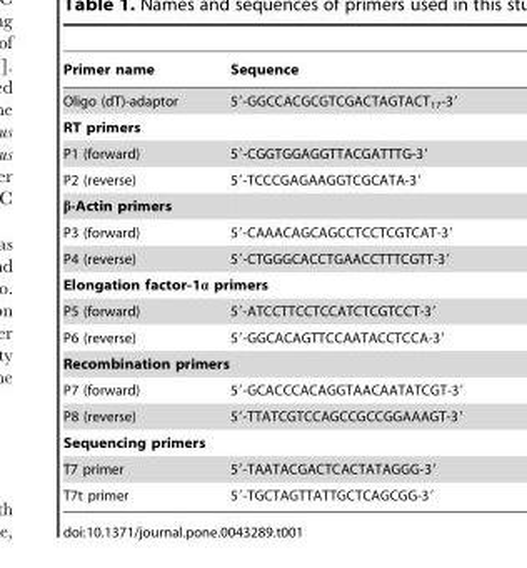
<table><thead><tr><td>Primer name</td><td>Sequence</td></tr></thead><tbody><tr><td>Oligo (dT)-adaptor</td><td>5′-GGCCACGCGTCGACTAGTACT<sub>17</sub>-3′</td></tr><tr><td colspan="2">RT primers</td></tr><tr><td>P1 (forward)</td><td>5′-CGGTGGAGGTTACGATTTG-3′</td></tr><tr><td>P2 (reverse)</td><td>5′-TCCCGAGAAGGTCGCATA-3′</td></tr><tr><td colspan="2">β-Actin primers</td></tr><tr><td>P3 (forward)</td><td>5′-CAAACAGCAGCCTCCTCGTCAT-3′</td></tr><tr><td>P4 (reverse)</td><td>5′-CTGGGCACCTGAACCTTTCGTT-3′</td></tr><tr><td colspan="2">Elongation factor-1α primers</td></tr><tr><td>P5 (forward)</td><td>5′-ATCCTTCCTCCATCTCGTCCT-3′</td></tr><tr><td>P6 (reverse)</td><td>5′-GGCACAGTTCCAATACCTCCA-3′</td></tr><tr><td colspan="2">Recombination primers</td></tr><tr><td>P7 (forward)</td><td>5′-GCACCCACAGGTAACAATATCGT-3′</td></tr><tr><td>P8 (reverse)</td><td>5′-TTATCGTCCAGCCGCCGGAAAGT-3′</td></tr><tr><td colspan="2">Sequencing primers</td></tr><tr><td>T7 primer</td><td>5′-TAATACGACTCACTATAGGG-3′</td></tr><tr><td>T7t primer</td><td>5′-TGCTAGTTATTGCTCAGCGG-3′</td></tr></tbody></table>